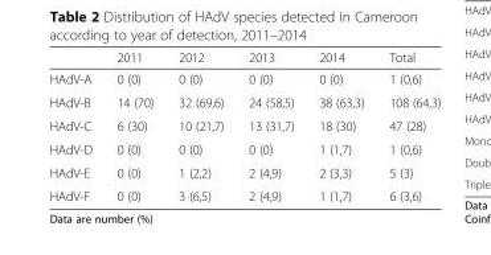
<table><thead><tr><td></td><td>2011</td><td>2012</td><td>2013</td><td>2014</td><td>Total</td></tr></thead><tbody><tr><td>HAdV-A</td><td>0 (0)</td><td>0 (0)</td><td>0 (0)</td><td>0 (0)</td><td>1 (0,6)</td></tr><tr><td>HAdV-B</td><td>14 (70)</td><td>32 (69,6)</td><td>24 (58,5)</td><td>38 (63,3)</td><td>108 (64,3)</td></tr><tr><td>HAdV-C</td><td>6 (30)</td><td>10 (21,7)</td><td>13 (31,7)</td><td>18 (30)</td><td>47 (28)</td></tr><tr><td>HAdV-D</td><td>0 (0)</td><td>0 (0)</td><td>0 (0)</td><td>1 (1,7)</td><td>1 (0,6)</td></tr><tr><td>HAdV-E</td><td>0 (0)</td><td>1 (2,2)</td><td>2 (4,9)</td><td>2 (3,3)</td><td>5 (3)</td></tr><tr><td>HAdV-F</td><td>0 (0)</td><td>3 (6,5)</td><td>2 (4,9)</td><td>1 (1,7)</td><td>6 (3,6)</td></tr></tbody></table>